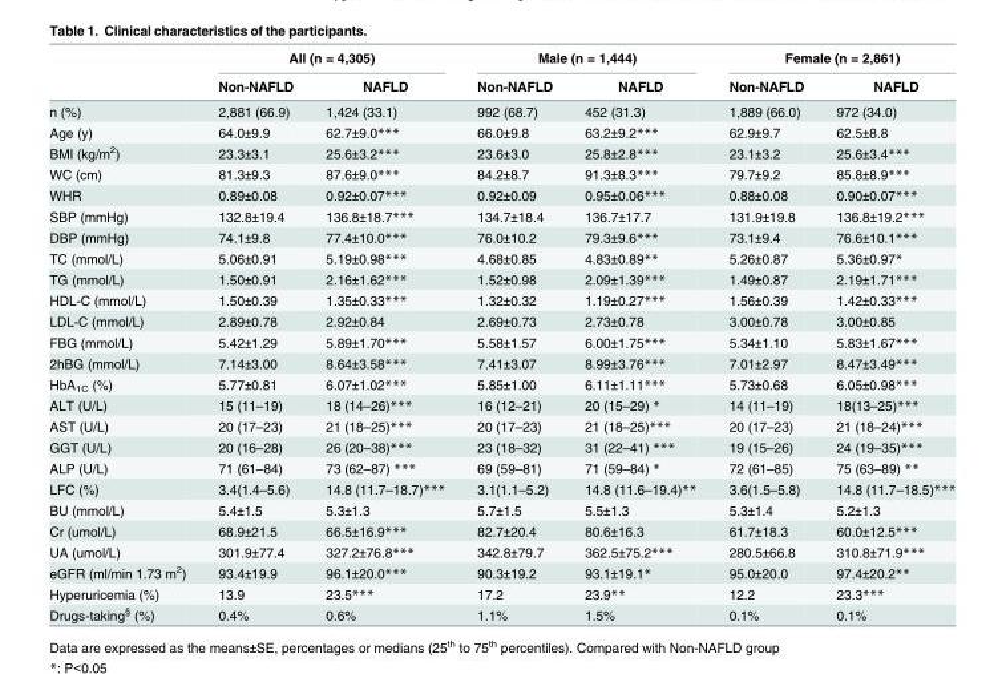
<table><thead><tr><td rowspan="2"></td><td colspan="2">All (n = 4,305)</td><td colspan="2">Male (n = 1,444)</td><td colspan="2">Female (n = 2,861)</td></tr><tr><td>Non-NAFLD</td><td>NAFLD</td><td>Non-NAFLD</td><td>NAFLD</td><td>Non-NAFLD</td><td>NAFLD</td></tr></thead><tbody><tr><td>n (%)</td><td>2,881 (66.9)</td><td>1,424 (33.1)</td><td>992 (68.7)</td><td>452 (31.3)</td><td>1,889 (66.0)</td><td>972 (34.0)</td></tr><tr><td>Age (y)</td><td>64.0±9.9</td><td>62.7±9.0***</td><td>66.0±9.8</td><td>63.2±9.2***</td><td>62.9±9.7</td><td>62.5±8.8</td></tr><tr><td>BMI (kg/m<sup>2</sup>)</td><td>23.3±3.1</td><td>25.6±3.2***</td><td>23.6±3.0</td><td>25.8±2.8***</td><td>23.1±3.2</td><td>25.6±3.4***</td></tr><tr><td>WC (cm)</td><td>81.3±9.3</td><td>87.6±9.0***</td><td>84.2±8.7</td><td>91.3±8.3***</td><td>79.7±9.2</td><td>85.8±8.9***</td></tr><tr><td>WHR</td><td>0.89±0.08</td><td>0.92±0.07***</td><td>0.92±0.09</td><td>0.95±0.06***</td><td>0.88±0.08</td><td>0.90±0.07***</td></tr><tr><td>SBP (mmHg)</td><td>132.8±19.4</td><td>136.8±18.7***</td><td>134.7±18.4</td><td>136.7±17.7</td><td>131.9±19.8</td><td>136.8±19.2***</td></tr><tr><td>DBP (mmHg)</td><td>74.1±9.8</td><td>77.4±10.0***</td><td>76.0±10.2</td><td>79.3±9.6***</td><td>73.1±9.4</td><td>76.6±10.1***</td></tr><tr><td>TC (mmol/L)</td><td>5.06±0.91</td><td>5.19±0.98***</td><td>4.68±0.85</td><td>4.83±0.89**</td><td>5.26±0.87</td><td>5.36±0.97*</td></tr><tr><td>TG (mmol/L)</td><td>1.50±0.91</td><td>2.16±1.62***</td><td>1.52±0.98</td><td>2.09±1.39***</td><td>1.49±0.87</td><td>2.19±1.71***</td></tr><tr><td>HDL-C (mmol/L)</td><td>1.50±0.39</td><td>1.35±0.33***</td><td>1.32±0.32</td><td>1.19±0.27***</td><td>1.56±0.39</td><td>1.42±0.33***</td></tr><tr><td>LDL-C (mmol/L)</td><td>2.89±0.78</td><td>2.92±0.84</td><td>2.69±0.73</td><td>2.73±0.78</td><td>3.00±0.78</td><td>3.00±0.85</td></tr><tr><td>FBG (mmol/L)</td><td>5.42±1.29</td><td>5.89±1.70***</td><td>5.58±1.57</td><td>6.00±1.75***</td><td>5.34±1.10</td><td>5.83±1.67***</td></tr><tr><td>2hBG (mmol/L)</td><td>7.14±3.00</td><td>8.64±3.58***</td><td>7.41±3.07</td><td>8.99±3.76***</td><td>7.01±2.97</td><td>8.47±3.49***</td></tr><tr><td>HbA<sub>1C</sub> (%)</td><td>5.77±0.81</td><td>6.07±1.02***</td><td>5.85±1.00</td><td>6.11±1.11***</td><td>5.73±0.68</td><td>6.05±0.98***</td></tr><tr><td>ALT (U/L)</td><td>15 (11–19)</td><td>18 (14–26)***</td><td>16 (12–21)</td><td>20 (15–29) *</td><td>14 (11–19)</td><td>18(13–25)***</td></tr><tr><td>AST (U/L)</td><td>20 (17–23)</td><td>21 (18–25)***</td><td>20 (17–23)</td><td>21 (18–25)***</td><td>20 (17–23)</td><td>21 (18–24)***</td></tr><tr><td>GGT (U/L)</td><td>20 (16–28)</td><td>26 (20–38)***</td><td>23 (18–32)</td><td>31 (22–41) ***</td><td>19 (15–26)</td><td>24 (19–35)***</td></tr><tr><td>ALP (U/L)</td><td>71 (61–84)</td><td>73 (62–87) ***</td><td>69 (59–81)</td><td>71 (59–84) *</td><td>72 (61–85)</td><td>75 (63–89) **</td></tr><tr><td>LFC (%)</td><td>3.4(1.4–5.6)</td><td>14.8 (11.7–18.7)***</td><td>3.1(1.1–5.2)</td><td>14.8 (11.6–19.4)**</td><td>3.6(1.5–5.8)</td><td>14.8 (11.7–18.5)***</td></tr><tr><td>BU (mmol/L)</td><td>5.4±1.5</td><td>5.3±1.3</td><td>5.7±1.5</td><td>5.5±1.3</td><td>5.3±1.4</td><td>5.2±1.3</td></tr><tr><td>Cr (umol/L)</td><td>68.9±21.5</td><td>66.5±16.9***</td><td>82.7±20.4</td><td>80.6±16.3</td><td>61.7±18.3</td><td>60.0±12.5***</td></tr><tr><td>UA (umol/L)</td><td>301.9±77.4</td><td>327.2±76.8***</td><td>342.8±79.7</td><td>362.5±75.2***</td><td>280.5±66.8</td><td>310.8±71.9***</td></tr><tr><td>eGFR (ml/min 1.73 m<sup>2</sup>)</td><td>93.4±19.9</td><td>96.1±20.0***</td><td>90.3±19.2</td><td>93.1±19.1*</td><td>95.0±20.0</td><td>97.4±20.2**</td></tr><tr><td>Hyperuricemia (%)</td><td>13.9</td><td>23.5***</td><td>17.2</td><td>23.9**</td><td>12.2</td><td>23.3***</td></tr><tr><td>Drugs-taking<sup>§</sup> (%)</td><td>0.4%</td><td>0.6%</td><td>1.1%</td><td>1.5%</td><td>0.1%</td><td>0.1%</td></tr></tbody></table>